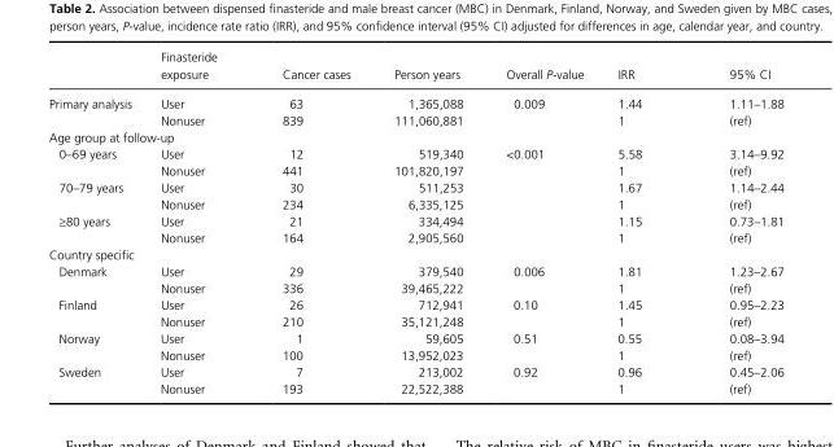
<table><thead><tr><td></td><td>Finasteride exposure</td><td>Cancer cases</td><td>Person years</td><td>Overall P- value</td><td>IRR</td><td>95% CI</td></tr></thead><tbody><tr><td rowspan="2">Primary analysis</td><td>User</td><td>63</td><td>1,365,088</td><td>0.009</td><td>1.44</td><td>1.11–1.88</td></tr><tr><td>Nonuser</td><td>839</td><td>111,060,881</td><td></td><td>1</td><td>(ref)</td></tr><tr><td colspan="7">Age group at follow- up</td></tr><tr><td rowspan="2">0–69 years</td><td>User</td><td>12</td><td>519,340</td><td>&lt;0.001</td><td>5.58</td><td>3.14–9.92</td></tr><tr><td>Nonuser</td><td>441</td><td>101,820,197</td><td></td><td>1</td><td>(ref)</td></tr><tr><td rowspan="2">70–79 years</td><td>User</td><td>30</td><td>511,253</td><td></td><td>1.67</td><td>1.14–2.44</td></tr><tr><td>Nonuser</td><td>234</td><td>6,335,125</td><td></td><td>1</td><td>(ref)</td></tr><tr><td rowspan="2">≥80 years</td><td>User</td><td>21</td><td>334,494</td><td></td><td>1.15</td><td>0.73–1.81</td></tr><tr><td>Nonuser</td><td>164</td><td>2,905,560</td><td></td><td>1</td><td>(ref)</td></tr><tr><td colspan="7">Country specific</td></tr><tr><td rowspan="2">Denmark</td><td>User</td><td>29</td><td>379,540</td><td>0.006</td><td>1.81</td><td>1.23–2.67</td></tr><tr><td>Nonuser</td><td>336</td><td>39,465,222</td><td></td><td>1</td><td>(ref)</td></tr><tr><td rowspan="2">Finland</td><td>User</td><td>26</td><td>712,941</td><td>0.10</td><td>1.45</td><td>0.95–2.23</td></tr><tr><td>Nonuser</td><td>210</td><td>35,121,248</td><td></td><td>1</td><td>(ref)</td></tr><tr><td rowspan="2">Norway</td><td>User</td><td>1</td><td>59,605</td><td>0.51</td><td>0.55</td><td>0.08–3.94</td></tr><tr><td>Nonuser</td><td>100</td><td>13,952,023</td><td></td><td>1</td><td>(ref)</td></tr><tr><td rowspan="2">Sweden</td><td>User</td><td>7</td><td>213,002</td><td>0.92</td><td>0.96</td><td>0.45–2.06</td></tr><tr><td>Nonuser</td><td>193</td><td>22,522,388</td><td></td><td>1</td><td>(ref)</td></tr></tbody></table>